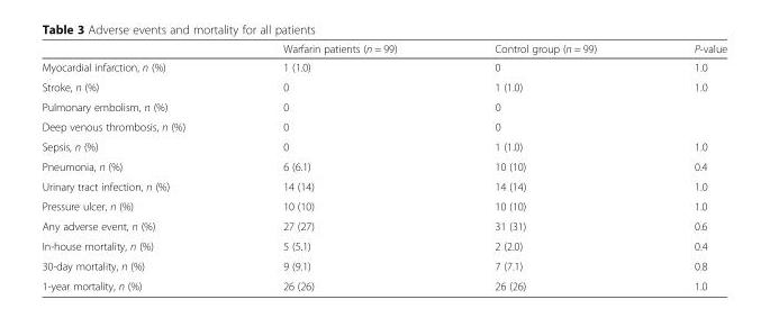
<table><thead><tr><td></td><td>Warfarin patients (n = 99)</td><td>Control group (n = 99)</td><td>P-value</td></tr></thead><tbody><tr><td>Myocardial infarction, n (%)</td><td>1 (1.0)</td><td>0</td><td>1.0</td></tr><tr><td>Stroke, n (%)</td><td>0</td><td>1 (1.0)</td><td>1.0</td></tr><tr><td>Pulmonary embolism, n (%)</td><td>0</td><td>0</td><td></td></tr><tr><td>Deep venous thrombosis, n (%)</td><td>0</td><td>0</td><td></td></tr><tr><td>Sepsis, n (%)</td><td>0</td><td>1 (1.0)</td><td>1.0</td></tr><tr><td>Pneumonia, n (%)</td><td>6 (6.1)</td><td>10 (10)</td><td>0.4</td></tr><tr><td>Urinary tract infection, n (%)</td><td>14 (14)</td><td>14 (14)</td><td>1.0</td></tr><tr><td>Pressure ulcer, n (%)</td><td>10 (10)</td><td>10 (10)</td><td>1.0</td></tr><tr><td>Any adverse event, n (%)</td><td>27 (27)</td><td>31 (31)</td><td>0.6</td></tr><tr><td>In-house mortality, n (%)</td><td>5 (5.1)</td><td>2 (2.0)</td><td>0.4</td></tr><tr><td>30-day mortality, n (%)</td><td>9 (9.1)</td><td>7 (7.1)</td><td>0.8</td></tr><tr><td>1-year mortality, n (%)</td><td>26 (26)</td><td>26 (26)</td><td>1.0</td></tr></tbody></table>